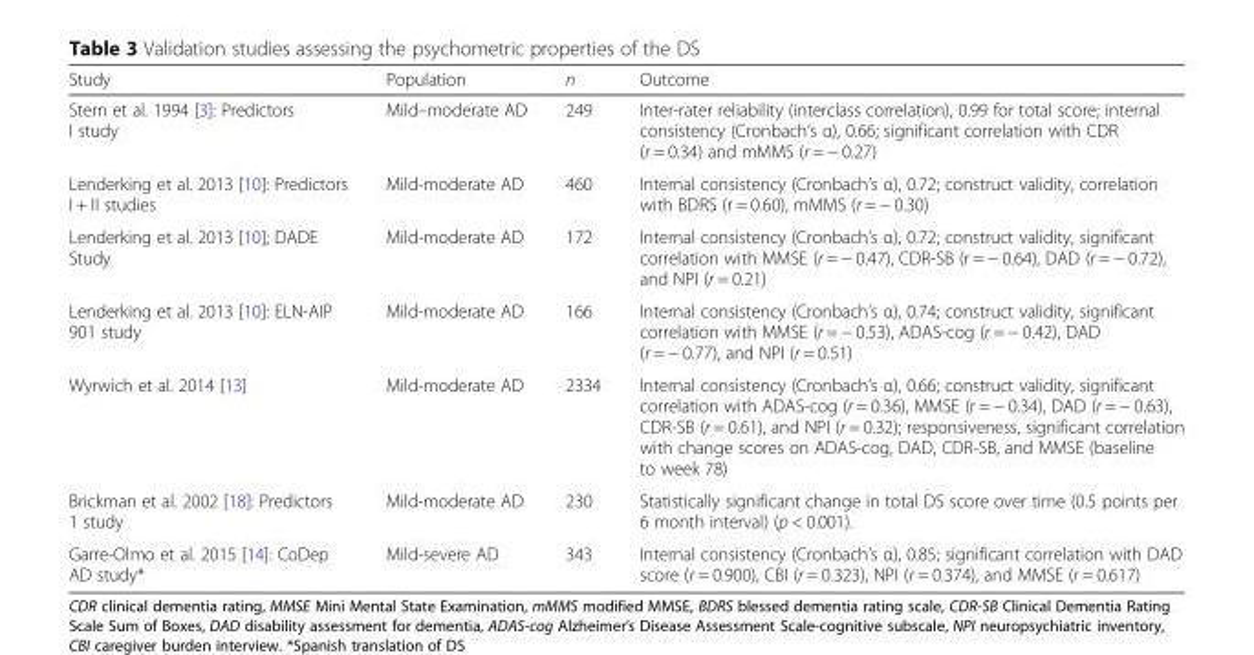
<table><thead><tr><td>Study</td><td>Population</td><td>n</td><td>Outcome</td></tr></thead><tbody><tr><td>Stern et al. 1994 [3]: Predictors I study</td><td>Mild–moderate AD</td><td>249</td><td>Inter-rater reliability (interclass correlation), 0.99 for total score; internal consistency (Cronbach’s α), 0.66; significant correlation with CDR (r = 0.34) and mMMS (r = − 0.27)</td></tr><tr><td>Lenderking et al. 2013 [10]: Predictors I + II studies</td><td>Mild-moderate AD</td><td>460</td><td>Internal consistency (Cronbach’s α), 0.72; construct validity, correlation with BDRS (r = 0.60), mMMS (r = − 0.30)</td></tr><tr><td>Lenderking et al. 2013 [10]; DADE Study</td><td>Mild-moderate AD</td><td>172</td><td>Internal consistency (Cronbach’s α), 0.72; construct validity, significant correlation with MMSE (r = − 0.47), CDR-SB (r = − 0.64), DAD (r = − 0.72), and NPI (r = 0.21)</td></tr><tr><td>Lenderking et al. 2013 [10]: ELN-AIP 901 study</td><td>Mild-moderate AD</td><td>166</td><td>Internal consistency (Cronbach’s α), 0.74; construct validity, significant correlation with MMSE (r = − 0.53), ADAS-cog (r = − 0.42), DAD (r = − 0.77), and NPI (r = 0.51)</td></tr><tr><td>Wyrwich et al. 2014 [13]</td><td>Mild-moderate AD</td><td>2334</td><td>Internal consistency (Cronbach’s α), 0.66; construct validity, significant correlation with ADAS-cog (r = 0.36), MMSE (r = − 0.34), DAD (r = − 0.63), CDR-SB (r = 0.61), and NPI (r = 0.32); responsiveness, significant correlation with change scores on ADAS-cog, DAD, CDR-SB, and MMSE (baseline to week 78)</td></tr><tr><td>Brickman et al. 2002 [18]: Predictors 1 study</td><td>Mild-moderate AD</td><td>230</td><td>Statistically significant change in total DS score over time (0.5 points per 6 month interval) (p &lt; 0.001).</td></tr><tr><td>Garre-Olmo et al. 2015 [14]: CoDep AD study*</td><td>Mild-severe AD</td><td>343</td><td>Internal consistency (Cronbach’s α), 0.85; significant correlation with DAD score (r = 0.900), CBI (r = 0.323), NPI (r = 0.374), and MMSE (r = 0.617)</td></tr></tbody></table>